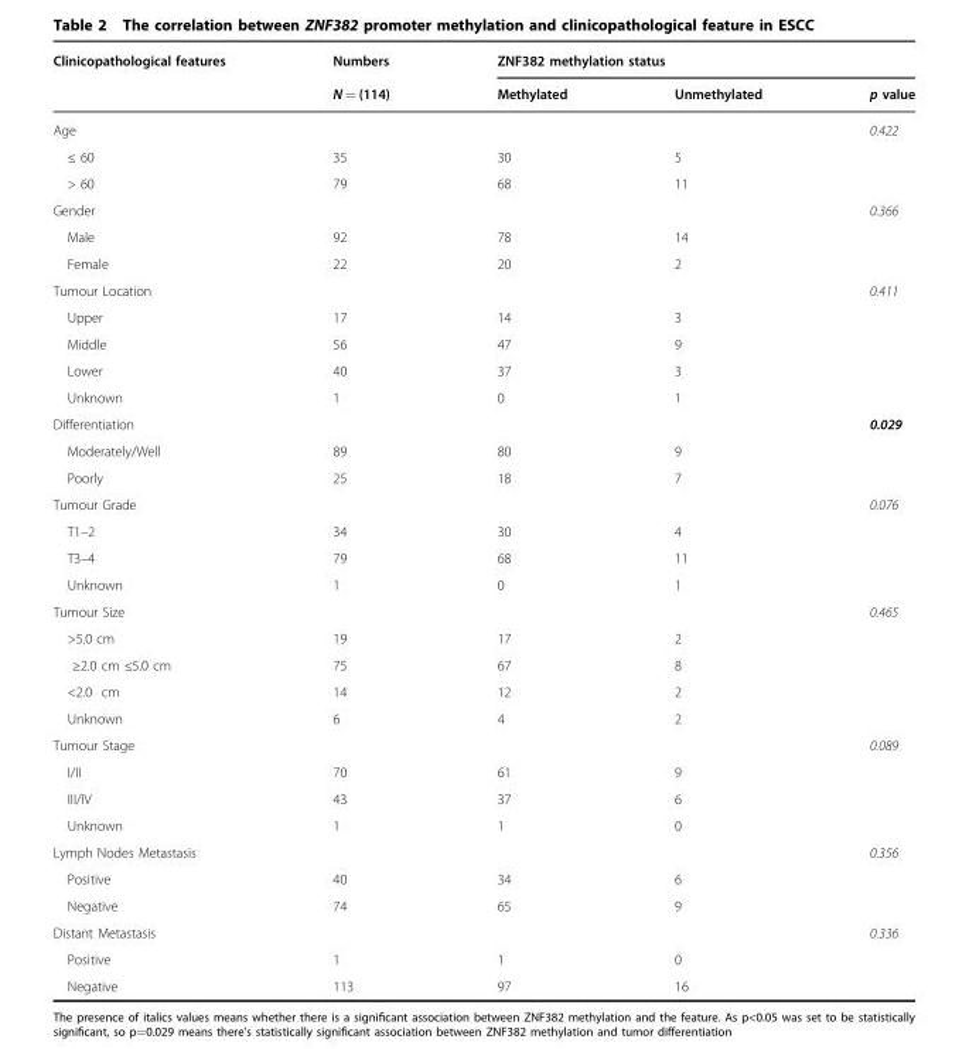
<table><thead><tr><td rowspan="2">Clinicopathological features</td><td rowspan="2">Numbers N = (114)</td><td colspan="3">ZNF382 methylation status</td></tr><tr><td>Methylated</td><td>Unmethylated</td><td>p value</td></tr></thead><tbody><tr><td>Age</td><td></td><td></td><td></td><td>0.422</td></tr><tr><td>≤ 60</td><td>35</td><td>30</td><td>5</td><td></td></tr><tr><td>&gt; 60</td><td>79</td><td>68</td><td>11</td><td></td></tr><tr><td>Gender</td><td></td><td></td><td></td><td>0.366</td></tr><tr><td>Male</td><td>92</td><td>78</td><td>14</td><td></td></tr><tr><td>Female</td><td>22</td><td>20</td><td>2</td><td></td></tr><tr><td>Tumour Location</td><td></td><td></td><td></td><td>0.411</td></tr><tr><td>Upper</td><td>17</td><td>14</td><td>3</td><td></td></tr><tr><td>Middle</td><td>56</td><td>47</td><td>9</td><td></td></tr><tr><td>Lower</td><td>40</td><td>37</td><td>3</td><td></td></tr><tr><td>Unknown</td><td>1</td><td>0</td><td>1</td><td></td></tr><tr><td>Differentiation</td><td></td><td></td><td></td><td>0.029</td></tr><tr><td>Moderately/Well</td><td>89</td><td>80</td><td>9</td><td></td></tr><tr><td>Poorly</td><td>25</td><td>18</td><td>7</td><td></td></tr><tr><td>Tumour Grade</td><td></td><td></td><td></td><td>0.076</td></tr><tr><td>T1–2</td><td>34</td><td>30</td><td>4</td><td></td></tr><tr><td>T3–4</td><td>79</td><td>68</td><td>11</td><td></td></tr><tr><td>Unknown</td><td>1</td><td>0</td><td>1</td><td></td></tr><tr><td>Tumour Size</td><td></td><td></td><td></td><td>0.465</td></tr><tr><td>&gt;5.0 cm</td><td>19</td><td>17</td><td>2</td><td></td></tr><tr><td>≥2.0 cm ≤5.0 cm</td><td>75</td><td>67</td><td>8</td><td></td></tr><tr><td>&lt;2.0 cm</td><td>14</td><td>12</td><td>2</td><td></td></tr><tr><td>Unknown</td><td>6</td><td>4</td><td>2</td><td></td></tr><tr><td>Tumour Stage</td><td></td><td></td><td></td><td>0.089</td></tr><tr><td>I/II</td><td>70</td><td>61</td><td>9</td><td></td></tr><tr><td>III/IV</td><td>43</td><td>37</td><td>6</td><td></td></tr><tr><td>Unknown</td><td>1</td><td>1</td><td>0</td><td></td></tr><tr><td>Lymph Nodes Metastasis</td><td></td><td></td><td></td><td>0.356</td></tr><tr><td>Positive</td><td>40</td><td>34</td><td>6</td><td></td></tr><tr><td>Negative</td><td>74</td><td>65</td><td>9</td><td></td></tr><tr><td>Distant Metastasis</td><td></td><td></td><td></td><td>0.336</td></tr><tr><td>Positive</td><td>1</td><td>1</td><td>0</td><td></td></tr><tr><td>Negative</td><td>113</td><td>97</td><td>16</td><td></td></tr></tbody></table>